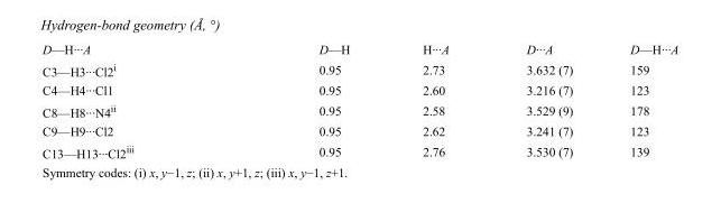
<table><tbody><tr><td>D—H···A</td><td>D—H</td><td>H···A</td><td>D···A</td><td>D—H···A</td></tr><tr><td>C3—H3···Cl2<sup>i</sup></td><td>0.95</td><td>2.73</td><td>3.632 (7)</td><td>159</td></tr><tr><td>C4—H4···Cl1</td><td>0.95</td><td>2.60</td><td>3.216 (7)</td><td>123</td></tr><tr><td>C8—H8···N4<sup>ii</sup></td><td>0.95</td><td>2.58</td><td>3.529 (9)</td><td>178</td></tr><tr><td>C9—H9···Cl2</td><td>0.95</td><td>2.62</td><td>3.241 (7)</td><td>123</td></tr><tr><td>C13—H13···Cl2<sup>iii</sup></td><td>0.95</td><td>2.76</td><td>3.530 (7)</td><td>139</td></tr></tbody></table>